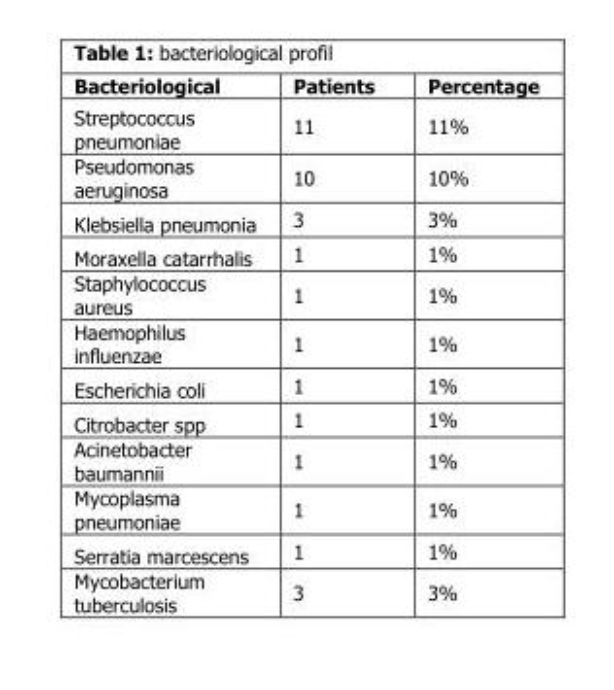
<table><thead><tr><td>Bacteriological</td><td>Patients</td><td>Percentage</td></tr></thead><tbody><tr><td>Streptococcus pneumoniae</td><td>11</td><td>11%</td></tr><tr><td>Pseudomonas aeruginosa</td><td>10</td><td>10%</td></tr><tr><td>Klebsiella pneumonia</td><td>3</td><td>3%</td></tr><tr><td>Moraxella catarrhalis</td><td>1</td><td>1%</td></tr><tr><td>Staphylococcus aureus</td><td>1</td><td>1%</td></tr><tr><td>Haemophilus influenzae</td><td>1</td><td>1%</td></tr><tr><td>Escherichia coli</td><td>1</td><td>1%</td></tr><tr><td>Citrobacter spp</td><td>1</td><td>1%</td></tr><tr><td>Acinetobacter baumannii</td><td>1</td><td>1%</td></tr><tr><td>Mycoplasma pneumoniae</td><td>1</td><td>1%</td></tr><tr><td>Serratia marcescens</td><td>1</td><td>1%</td></tr><tr><td>Mycobacterium tuberculosis</td><td>3</td><td>3%</td></tr></tbody></table>